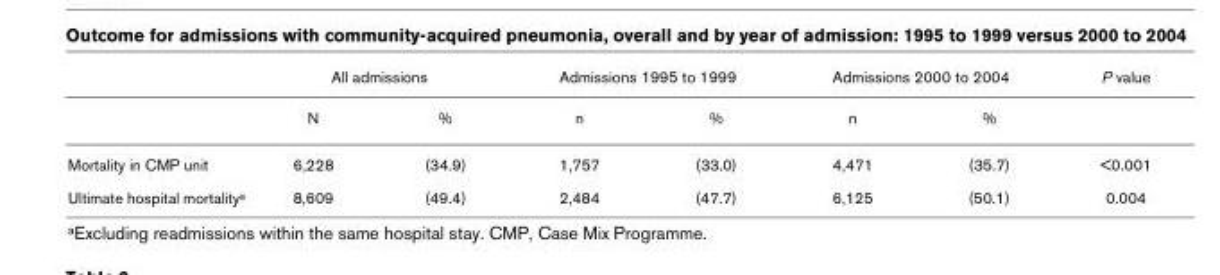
<table><thead><tr><td rowspan="2"></td><td colspan="2">All admissions</td><td colspan="2">Admissions 1995 to 1999</td><td colspan="2">Admissions 2000 to 2004</td><td rowspan="2">P value</td></tr><tr><td>N</td><td>%</td><td>n</td><td>%</td><td>n</td><td>%</td></tr></thead><tbody><tr><td>Mortality in CMP unit</td><td>6,228</td><td>(34.9)</td><td>1,757</td><td>(33.0)</td><td>4,471</td><td>(35.7)</td><td>&lt;0.001</td></tr><tr><td>Ultimate hospital mortality<sup>a</sup></td><td>8,609</td><td>(49.4)</td><td>2,484</td><td>(47.7)</td><td>6,125</td><td>(50.1)</td><td>0.004</td></tr></tbody></table>